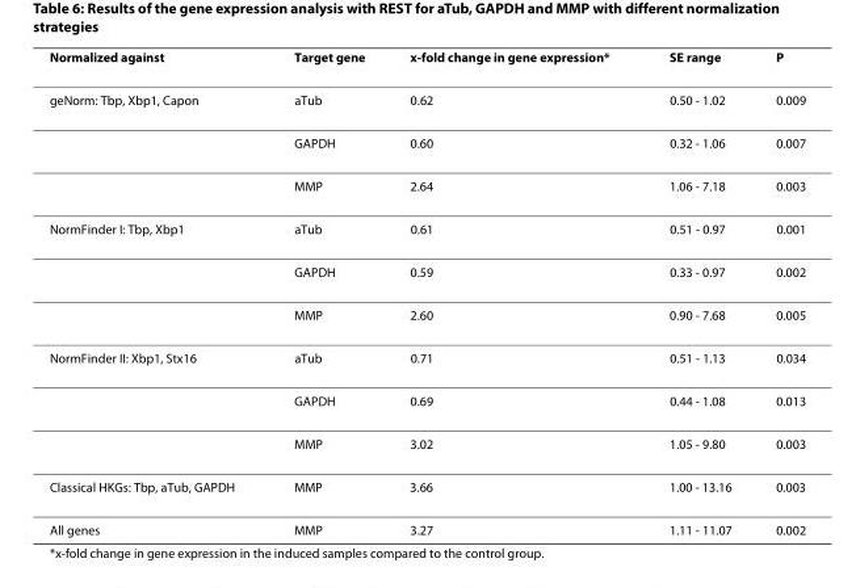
<table><thead><tr><td>Normalized against</td><td>Target gene</td><td>x-fold change in gene expression*</td><td>SE range</td><td>P</td></tr></thead><tbody><tr><td rowspan="3">geNorm: Tbp, Xbp1, Capon</td><td>aTub</td><td>0.62</td><td>0.50 - 1.02</td><td>0.009</td></tr><tr><td>GAPDH</td><td>0.60</td><td>0.32 - 1.06</td><td>0.007</td></tr><tr><td>MMP</td><td>2.64</td><td>1.06 - 7.18</td><td>0.003</td></tr><tr><td rowspan="3">NormFinder I: Tbp, Xbp1</td><td>aTub</td><td>0.61</td><td>0.51 - 0.97</td><td>0.001</td></tr><tr><td>GAPDH</td><td>0.59</td><td>0.33 - 0.97</td><td>0.002</td></tr><tr><td>MMP</td><td>2.60</td><td>0.90 - 7.68</td><td>0.005</td></tr><tr><td rowspan="3">NormFinder II: Xbp1, Stx16</td><td>aTub</td><td>0.71</td><td>0.51 - 1.13</td><td>0.034</td></tr><tr><td>GAPDH</td><td>0.69</td><td>0.44 - 1.08</td><td>0.013</td></tr><tr><td>MMP</td><td>3.02</td><td>1.05 - 9.80</td><td>0.003</td></tr><tr><td>Classical HKGs: Tbp, aTub, GAPDH</td><td>MMP</td><td>3.66</td><td>1.00 - 13.16</td><td>0.003</td></tr><tr><td>All genes</td><td>MMP</td><td>3.27</td><td>1.11 - 11.07</td><td>0.002</td></tr></tbody></table>